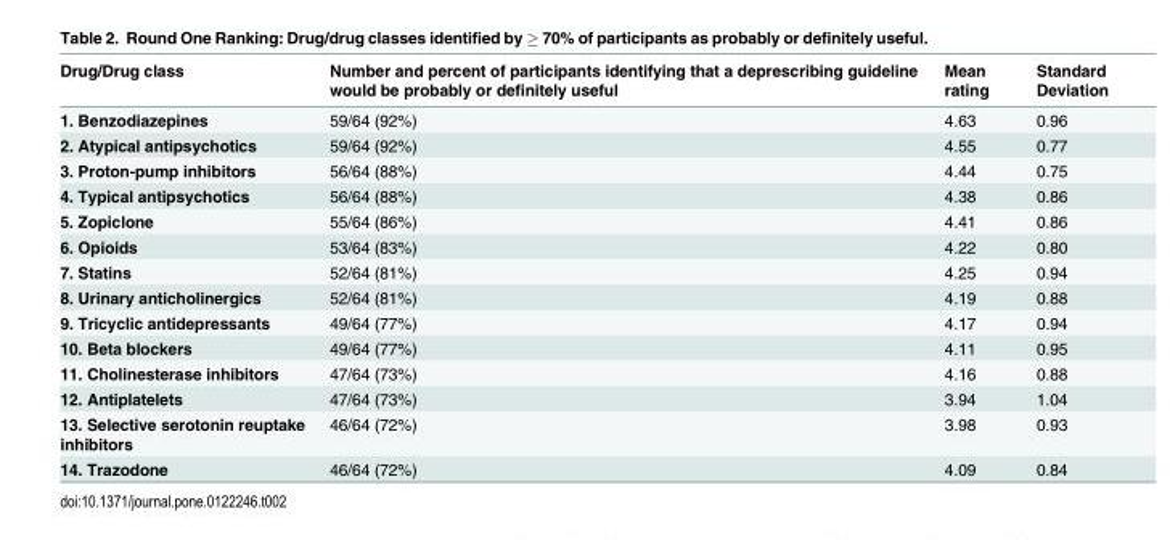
<table><thead><tr><td>Drug/Drug class</td><td>Number and percent of participants identifying that a deprescribing guideline would be probably or definitely useful</td><td>Mean rating</td><td>Standard Deviation</td></tr></thead><tbody><tr><td>1. Benzodiazepines</td><td>59/64 (92%)</td><td>4.63</td><td>0.96</td></tr><tr><td>2. Atypical antipsychotics</td><td>59/64 (92%)</td><td>4.55</td><td>0.77</td></tr><tr><td>3. Proton-pump inhibitors</td><td>56/64 (88%)</td><td>4.44</td><td>0.75</td></tr><tr><td>4. Typical antipsychotics</td><td>56/64 (88%)</td><td>4.38</td><td>0.86</td></tr><tr><td>5. Zopiclone</td><td>55/64 (86%)</td><td>4.41</td><td>0.86</td></tr><tr><td>6. Opioids</td><td>53/64 (83%)</td><td>4.22</td><td>0.80</td></tr><tr><td>7. Statins</td><td>52/64 (81%)</td><td>4.25</td><td>0.94</td></tr><tr><td>8. Urinary anticholinergics</td><td>52/64 (81%)</td><td>4.19</td><td>0.88</td></tr><tr><td>9. Tricyclic antidepressants</td><td>49/64 (77%)</td><td>4.17</td><td>0.94</td></tr><tr><td>10. Beta blockers</td><td>49/64 (77%)</td><td>4.11</td><td>0.95</td></tr><tr><td>11. Cholinesterase inhibitors</td><td>47/64 (73%)</td><td>4.16</td><td>0.88</td></tr><tr><td>12. Antiplatelets</td><td>47/64 (73%)</td><td>3.94</td><td>1.04</td></tr><tr><td>13. Selective serotonin reuptake inhibitors</td><td>46/64 (72%)</td><td>3.98</td><td>0.93</td></tr><tr><td>14. Trazodone</td><td>46/64 (72%)</td><td>4.09</td><td>0.84</td></tr></tbody></table>